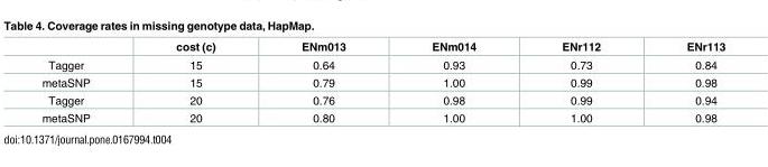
<table><thead><tr><td></td><td>cost (c)</td><td>ENm013</td><td>ENm014</td><td>ENr112</td><td>ENr113</td></tr></thead><tbody><tr><td>Tagger</td><td>15</td><td>0.64</td><td>0.93</td><td>0.73</td><td>0.84</td></tr><tr><td>metaSNP</td><td>15</td><td>0.79</td><td>1.00</td><td>0.99</td><td>0.98</td></tr><tr><td>Tagger</td><td>20</td><td>0.76</td><td>0.98</td><td>0.99</td><td>0.94</td></tr><tr><td>metaSNP</td><td>20</td><td>0.80</td><td>1.00</td><td>1.00</td><td>0.98</td></tr></tbody></table>